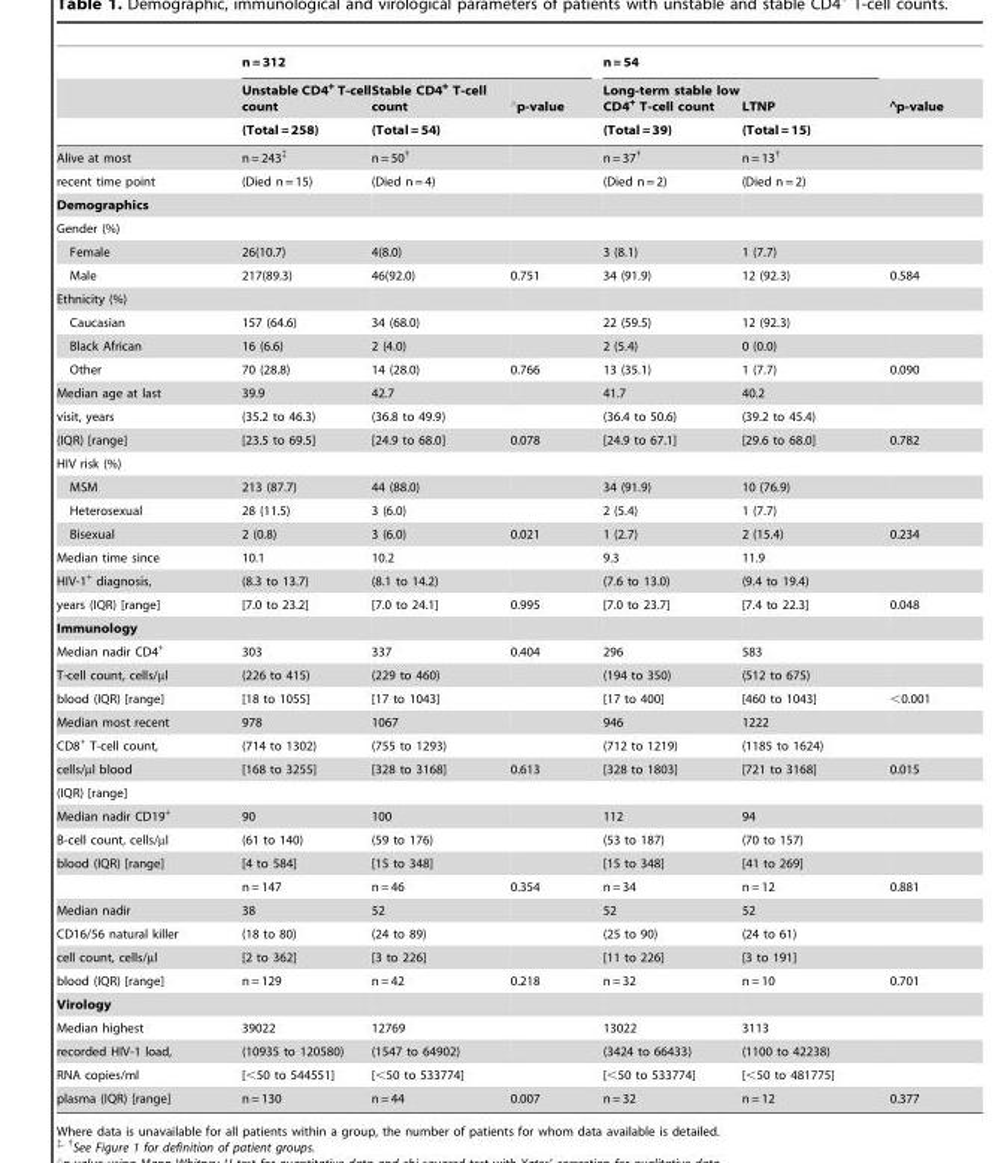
<table><thead><tr><td rowspan="3"></td><td colspan="3">n = 312</td><td colspan="2">n = 54</td><td rowspan="3">‘p-value</td></tr><tr><td rowspan="2">Unstable CD4<sup>+</sup> T-cell count (Total = 258)</td><td rowspan="2">Stable CD4<sup>+</sup> T-cell count (Total = 54)</td><td rowspan="2">‘p-value</td><td rowspan="2">Long-term stable low CD4<sup>+</sup> T-cell count (Total = 39)</td><td rowspan="2">LTNP (Total = 15)</td></tr><tr></tr></thead><tbody><tr><td>Alive at most</td><td>n = 243‡</td><td>n = 50†</td><td></td><td>n = 37†</td><td>n = 13†</td><td></td></tr><tr><td>recent time point</td><td>(Died n = 15)</td><td>(Died n = 4)</td><td></td><td>(Died n = 2)</td><td>(Died n = 2)</td><td></td></tr><tr><td colspan="7">Demographics</td></tr><tr><td colspan="7">Gender (%)</td></tr><tr><td>Female</td><td>26(10.7)</td><td>4(8.0)</td><td></td><td>3 (8.1)</td><td>1 (7.7)</td><td></td></tr><tr><td>Male</td><td>217(89.3)</td><td>46(92.0)</td><td>0.751</td><td>34 (91.9)</td><td>12 (92.3)</td><td>0.584</td></tr><tr><td colspan="7">Ethnicity (%)</td></tr><tr><td>Caucasian</td><td>157 (64.6)</td><td>34 (68.0)</td><td></td><td>22 (59.5)</td><td>12 (92.3)</td><td></td></tr><tr><td>Black African</td><td>16 (6.6)</td><td>2 (4.0)</td><td></td><td>2 (5.4)</td><td>0 (0.0)</td><td></td></tr><tr><td>Other</td><td>70 (28.8)</td><td>14 (28.0)</td><td>0.766</td><td>13 (35.1)</td><td>1 (7.7)</td><td>0.090</td></tr><tr><td>Median age at last</td><td>39.9</td><td>42.7</td><td></td><td>41.7</td><td>40.2</td><td></td></tr><tr><td>visit, years</td><td>(35.2 to 46.3)</td><td>(36.8 to 49.9)</td><td></td><td>(36.4 to 50.6)</td><td>(39.2 to 45.4)</td><td></td></tr><tr><td>(IQR) [range]</td><td>[23.5 to 69.5]</td><td>[24.9 to 68.0]</td><td>0.078</td><td>[24.9 to 67.1]</td><td>[29.6 to 68.0]</td><td>0.782</td></tr><tr><td colspan="7">HIV risk (%)</td></tr><tr><td>MSM</td><td>213 (87.7)</td><td>44 (88.0)</td><td></td><td>34 (91.9)</td><td>10 (76.9)</td><td></td></tr><tr><td>Heterosexual</td><td>28 (11.5)</td><td>3 (6.0)</td><td></td><td>2 (5.4)</td><td>1 (7.7)</td><td></td></tr><tr><td>Bisexual</td><td>2 (0.8)</td><td>3 (6.0)</td><td>0.021</td><td>1 (2.7)</td><td>2 (15.4)</td><td>0.234</td></tr><tr><td>Median time since</td><td>10.1</td><td>10.2</td><td></td><td>9.3</td><td>11.9</td><td></td></tr><tr><td>HIV-1<sup>+</sup> diagnosis,</td><td>(8.3 to 13.7)</td><td>(8.1 to 14.2)</td><td></td><td>(7.6 to 13.0)</td><td>(9.4 to 19.4)</td><td></td></tr><tr><td>years (IQR) [range]</td><td>[7.0 to 23.2]</td><td>[7.0 to 24.1]</td><td>0.995</td><td>[7.0 to 23.7]</td><td>[7.4 to 22.3]</td><td>0.048</td></tr><tr><td colspan="7">Immunology</td></tr><tr><td>Median nadir CD4<sup>+</sup></td><td>303</td><td>337</td><td>0.404</td><td>296</td><td>583</td><td></td></tr><tr><td>T-cell count, cells/µl</td><td>(226 to 415)</td><td>(229 to 460)</td><td></td><td>(194 to 350)</td><td>(512 to 675)</td><td></td></tr><tr><td>blood (IQR) [range]</td><td>[18 to 1055]</td><td>[17 to 1043]</td><td></td><td>[17 to 400]</td><td>[460 to 1043]</td><td>&lt;0.001</td></tr><tr><td>Median most recent</td><td>978</td><td>1067</td><td></td><td>946</td><td>1222</td><td></td></tr><tr><td>CD8<sup>+</sup> T-cell count,</td><td>(714 to 1302)</td><td>(755 to 1293)</td><td></td><td>(712 to 1219)</td><td>(1185 to 1624)</td><td></td></tr><tr><td>cells/µl blood</td><td>[168 to 3255]</td><td>[328 to 3168]</td><td>0.613</td><td>[328 to 1803]</td><td>[721 to 3168]</td><td>0.015</td></tr><tr><td colspan="7">(IQR) [range]</td></tr><tr><td>Median nadir CD19<sup>+</sup></td><td>90</td><td>100</td><td></td><td>112</td><td>94</td><td></td></tr><tr><td>B-cell count, cells/µl</td><td>(61 to 140)</td><td>(59 to 176)</td><td></td><td>(53 to 187)</td><td>(70 to 157)</td><td></td></tr><tr><td rowspan="2">blood (IQR) [range]</td><td>[4 to 584]</td><td>[15 to 348]</td><td></td><td>[15 to 348]</td><td>[41 to 269]</td><td></td></tr><tr><td>n = 147</td><td>n = 46</td><td>0.354</td><td>n = 34</td><td>n = 12</td><td>0.881</td></tr><tr><td>Median nadir</td><td>38</td><td>52</td><td></td><td>52</td><td>52</td><td></td></tr><tr><td>CD16/56 natural killer</td><td>(18 to 80)</td><td>(24 to 89)</td><td></td><td>(25 to 90)</td><td>(24 to 61)</td><td></td></tr><tr><td>cell count, cells/µl</td><td>[2 to 362]</td><td>[3 to 226]</td><td></td><td>[11 to 226]</td><td>[3 to 191]</td><td></td></tr><tr><td>blood (IQR) [range]</td><td>n = 129</td><td>n = 42</td><td>0.218</td><td>n = 32</td><td>n = 10</td><td>0.701</td></tr><tr><td colspan="7">Virology</td></tr><tr><td>Median highest</td><td>39022</td><td>12769</td><td></td><td>13022</td><td>3113</td><td></td></tr><tr><td>recorded HIV-1 load,</td><td>(10935 to 120580)</td><td>(1547 to 64902)</td><td></td><td>(3424 to 66433)</td><td>(1100 to 42238)</td><td></td></tr><tr><td>RNA copies/ml</td><td>[&lt;50 to 544551]</td><td>[&lt;50 to 533774]</td><td></td><td>[&lt;50 to 533774]</td><td>[&lt;50 to 481775]</td><td></td></tr><tr><td>plasma (IQR) [range]</td><td>n = 130</td><td>n = 44</td><td>0.007</td><td>n = 32</td><td>n = 12</td><td>0.377</td></tr></tbody></table>